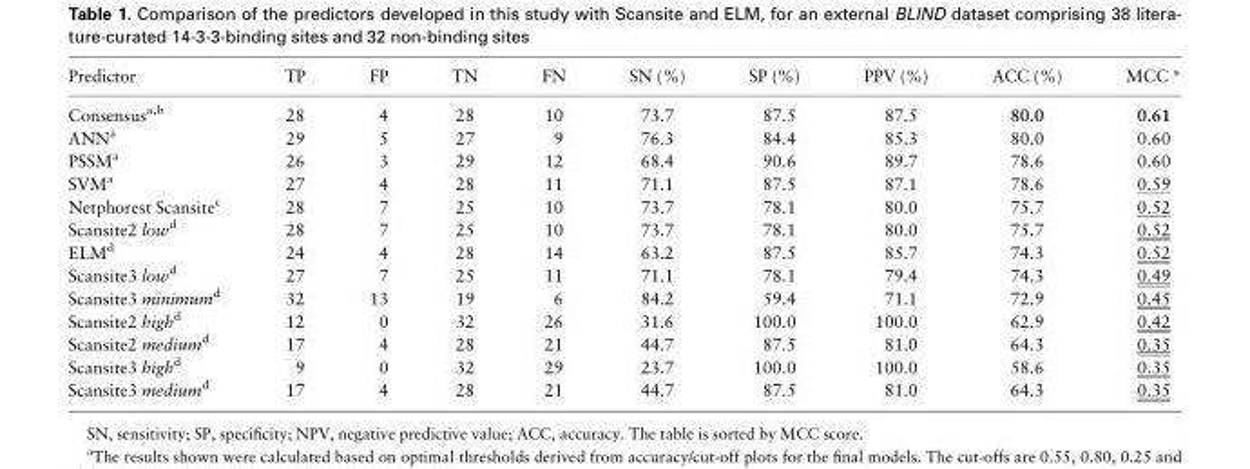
<table><thead><tr><td>Predictor</td><td>TP</td><td>FP</td><td>TN</td><td>FN</td><td>SN (%)</td><td>SP (%)</td><td>PPV (%)</td><td>ACC (%)</td><td>MCC *</td></tr></thead><tbody><tr><td>Consensus<sup>a,b</sup></td><td>28</td><td>4</td><td>28</td><td>10</td><td>73.7</td><td>87.5</td><td>87.5</td><td>80.0</td><td>0.61</td></tr><tr><td>ANN<sup>a</sup></td><td>29</td><td>5</td><td>27</td><td>9</td><td>76.3</td><td>84.4</td><td>85.3</td><td>80.0</td><td>0.60</td></tr><tr><td>PSSM<sup>a</sup></td><td>26</td><td>3</td><td>29</td><td>12</td><td>68.4</td><td>90.6</td><td>89.7</td><td>78.6</td><td>0.60</td></tr><tr><td>SVM<sup>a</sup></td><td>27</td><td>4</td><td>28</td><td>11</td><td>71.1</td><td>87.5</td><td>87.1</td><td>78.6</td><td>0.59</td></tr><tr><td>Netphorest Scansite<sup>c</sup></td><td>28</td><td>7</td><td>25</td><td>10</td><td>73.7</td><td>78.1</td><td>80.0</td><td>75.7</td><td>0.52</td></tr><tr><td>Scansite2 low<sup>d</sup></td><td>28</td><td>7</td><td>25</td><td>10</td><td>73.7</td><td>78.1</td><td>80.0</td><td>75.7</td><td>0.52</td></tr><tr><td>ELM<sup>d</sup></td><td>24</td><td>4</td><td>28</td><td>14</td><td>63.2</td><td>87.5</td><td>85.7</td><td>74.3</td><td>0.52</td></tr><tr><td>Scansite3 low<sup>d</sup></td><td>27</td><td>7</td><td>25</td><td>11</td><td>71.1</td><td>78.1</td><td>79.4</td><td>74.3</td><td>0.49</td></tr><tr><td>Scansite3 minimum<sup>d</sup></td><td>32</td><td>13</td><td>19</td><td>6</td><td>84.2</td><td>59.4</td><td>71.1</td><td>72.9</td><td>0.45</td></tr><tr><td>Scansite2 high<sup>d</sup></td><td>12</td><td>0</td><td>32</td><td>26</td><td>31.6</td><td>100.0</td><td>100.0</td><td>62.9</td><td>0.42</td></tr><tr><td>Scansite2 medium<sup>d</sup></td><td>17</td><td>4</td><td>28</td><td>21</td><td>44.7</td><td>87.5</td><td>81.0</td><td>64.3</td><td>0.35</td></tr><tr><td>Scansite3 high<sup>d</sup></td><td>9</td><td>0</td><td>32</td><td>29</td><td>23.7</td><td>100.0</td><td>100.0</td><td>58.6</td><td>0.35</td></tr><tr><td>Scansite3 medium<sup>d</sup></td><td>17</td><td>4</td><td>28</td><td>21</td><td>44.7</td><td>87.5</td><td>81.0</td><td>64.3</td><td>0.35</td></tr></tbody></table>